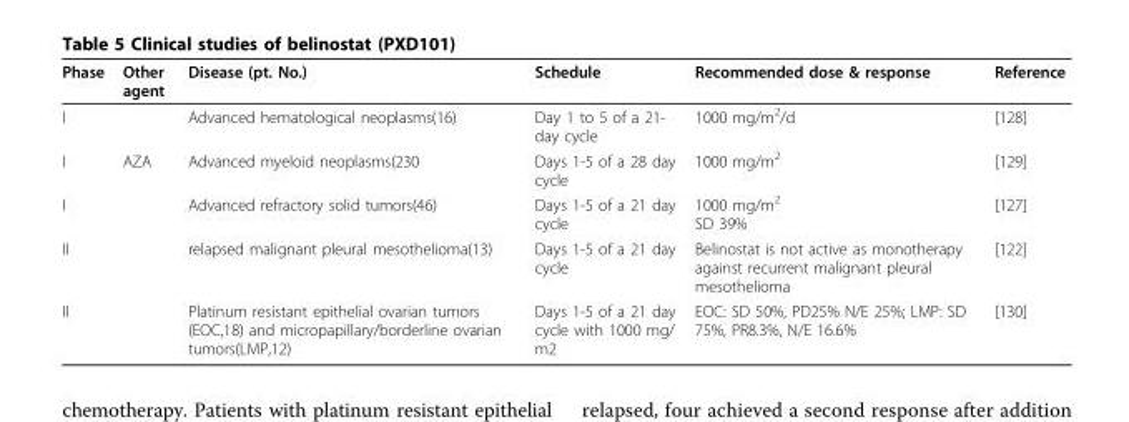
<table><thead><tr><td>Phase</td><td>Other agent</td><td>Disease (pt. No.)</td><td>Schedule</td><td>Recommended dose &amp; response</td><td>Reference</td></tr></thead><tbody><tr><td>I</td><td></td><td>Advanced hematological neoplasms(16)</td><td>Day 1 to 5 of a 21- day cycle</td><td>1000 mg/m<sup>2</sup>/d</td><td>[128]</td></tr><tr><td>I</td><td>AZA</td><td>Advanced myeloid neoplasms(230</td><td>Days 1-5 of a 28 day cycle</td><td>1000 mg/m<sup>2</sup></td><td>[129]</td></tr><tr><td>I</td><td></td><td>Advanced refractory solid tumors(46)</td><td>Days 1-5 of a 21 day cycle</td><td>1000 mg/m<sup>2</sup> SD 39%</td><td>[127]</td></tr><tr><td>II</td><td></td><td>relapsed malignant pleural mesothelioma(13)</td><td>Days 1-5 of a 21 day cycle</td><td>Belinostat is not active as monotherapy against recurrent malignant pleural mesothelioma</td><td>[122]</td></tr><tr><td>II</td><td></td><td>Platinum resistant epithelial ovarian tumors (EOC,18) and micropapillary/borderline ovarian tumors(LMP,12)</td><td>Days 1-5 of a 21 day cycle with 1000 mg/ m2</td><td>EOC: SD 50%, PD25% N/E 25%; LMP: SD 75%, PR8.3%, N/E 16.6%</td><td>[130]</td></tr></tbody></table>